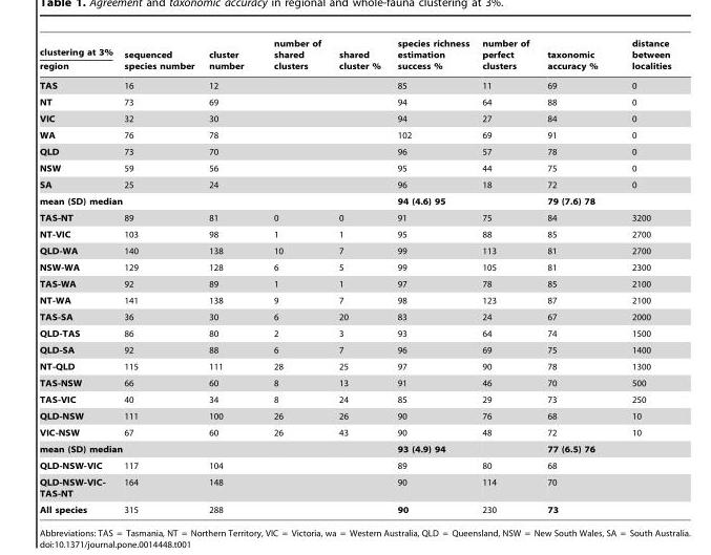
<table><thead><tr><td>clustering at 3% region</td><td>sequenced species number</td><td>cluster number</td><td>number of shared clusters</td><td>shared cluster %</td><td>species richness estimation success %</td><td>number of perfect clusters</td><td>taxonomic accuracy %</td><td>distance between localities</td></tr></thead><tbody><tr><td>TAS</td><td>16</td><td>12</td><td></td><td></td><td>85</td><td>11</td><td>69</td><td>0</td></tr><tr><td>NT</td><td>73</td><td>69</td><td></td><td></td><td>94</td><td>64</td><td>88</td><td>0</td></tr><tr><td>VIC</td><td>32</td><td>30</td><td></td><td></td><td>94</td><td>27</td><td>84</td><td>0</td></tr><tr><td>WA</td><td>76</td><td>78</td><td></td><td></td><td>102</td><td>69</td><td>91</td><td>0</td></tr><tr><td>QLD</td><td>73</td><td>70</td><td></td><td></td><td>96</td><td>57</td><td>78</td><td>0</td></tr><tr><td>NSW</td><td>59</td><td>56</td><td></td><td></td><td>95</td><td>44</td><td>75</td><td>0</td></tr><tr><td>SA</td><td>25</td><td>24</td><td></td><td></td><td>96</td><td>18</td><td>72</td><td>0</td></tr><tr><td>mean (SD) median</td><td></td><td></td><td></td><td></td><td>94 (4.6) 95</td><td></td><td>79 (7.6) 78</td><td></td></tr><tr><td>TAS-NT</td><td>89</td><td>81</td><td>0</td><td>0</td><td>91</td><td>75</td><td>84</td><td>3200</td></tr><tr><td>NT-VIC</td><td>103</td><td>98</td><td>1</td><td>1</td><td>95</td><td>88</td><td>85</td><td>2700</td></tr><tr><td>QLD-WA</td><td>140</td><td>138</td><td>10</td><td>7</td><td>99</td><td>113</td><td>81</td><td>2700</td></tr><tr><td>NSW-WA</td><td>129</td><td>128</td><td>6</td><td>5</td><td>99</td><td>105</td><td>81</td><td>2300</td></tr><tr><td>TAS-WA</td><td>92</td><td>89</td><td>1</td><td>1</td><td>97</td><td>78</td><td>85</td><td>2100</td></tr><tr><td>NT-WA</td><td>141</td><td>138</td><td>9</td><td>7</td><td>98</td><td>123</td><td>87</td><td>2100</td></tr><tr><td>TAS-SA</td><td>36</td><td>30</td><td>6</td><td>20</td><td>83</td><td>24</td><td>67</td><td>2000</td></tr><tr><td>QLD-TAS</td><td>86</td><td>80</td><td>2</td><td>3</td><td>93</td><td>64</td><td>74</td><td>1500</td></tr><tr><td>QLD-SA</td><td>92</td><td>88</td><td>6</td><td>7</td><td>96</td><td>69</td><td>75</td><td>1400</td></tr><tr><td>NT-QLD</td><td>115</td><td>111</td><td>28</td><td>25</td><td>97</td><td>90</td><td>78</td><td>1300</td></tr><tr><td>TAS-NSW</td><td>66</td><td>60</td><td>8</td><td>13</td><td>91</td><td>46</td><td>70</td><td>500</td></tr><tr><td>TAS-VIC</td><td>40</td><td>34</td><td>8</td><td>24</td><td>85</td><td>29</td><td>73</td><td>250</td></tr><tr><td>QLD-NSW</td><td>111</td><td>100</td><td>26</td><td>26</td><td>90</td><td>76</td><td>68</td><td>10</td></tr><tr><td>VIC-NSW</td><td>67</td><td>60</td><td>26</td><td>43</td><td>90</td><td>48</td><td>72</td><td>10</td></tr><tr><td>mean (SD) median</td><td></td><td></td><td></td><td></td><td>93 (4.9) 94</td><td></td><td>77 (6.5) 76</td><td></td></tr><tr><td>QLD-NSW-VIC</td><td>117</td><td>104</td><td></td><td></td><td>89</td><td>80</td><td>68</td><td></td></tr><tr><td>QLD-NSW-VIC- TAS-NT</td><td>164</td><td>148</td><td></td><td></td><td>90</td><td>114</td><td>70</td><td></td></tr><tr><td>All species</td><td>315</td><td>288</td><td></td><td></td><td>90</td><td>230</td><td>73</td><td></td></tr></tbody></table>